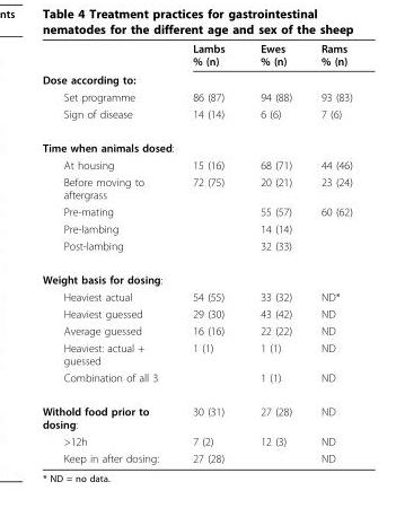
<table><thead><tr><td></td><td>Lambs % (n)</td><td>Ewes % (n)</td><td>Rams % (n)</td></tr></thead><tbody><tr><td colspan="4">Dose according to:</td></tr><tr><td>Set programme</td><td>86 (87)</td><td>94 (88)</td><td>93 (83)</td></tr><tr><td>Sign of disease</td><td>14 (14)</td><td>6 (6)</td><td>7 (6)</td></tr><tr><td colspan="4">Time when animals dosed:</td></tr><tr><td>At housing</td><td>15 (16)</td><td>68 (71)</td><td>44 (46)</td></tr><tr><td>Before moving to aftergrass</td><td>72 (75)</td><td>20 (21)</td><td>23 (24)</td></tr><tr><td>Pre-mating</td><td></td><td>55 (57)</td><td>60 (62)</td></tr><tr><td>Pre-lambing</td><td></td><td>14 (14)</td><td></td></tr><tr><td>Post-lambing</td><td></td><td>32 (33)</td><td></td></tr><tr><td colspan="4">Weight basis for dosing:</td></tr><tr><td>Heaviest actual</td><td>54 (55)</td><td>33 (32)</td><td>ND*</td></tr><tr><td>Heaviest guessed</td><td>29 (30)</td><td>43 (42)</td><td>ND</td></tr><tr><td>Average guessed</td><td>16 (16)</td><td>22 (22)</td><td>ND</td></tr><tr><td>Heaviest: actual + guessed</td><td>1 (1)</td><td>1 (1)</td><td>ND</td></tr><tr><td>Combination of all 3</td><td></td><td>1 (1)</td><td>ND</td></tr><tr><td>Withold food prior to dosing:</td><td>30 (31)</td><td>27 (28)</td><td>ND</td></tr><tr><td>&gt;12h</td><td>7 (2)</td><td>12 (3)</td><td>ND</td></tr><tr><td>Keep in after dosing:</td><td colspan="2">27 (28)</td><td>ND</td></tr></tbody></table>